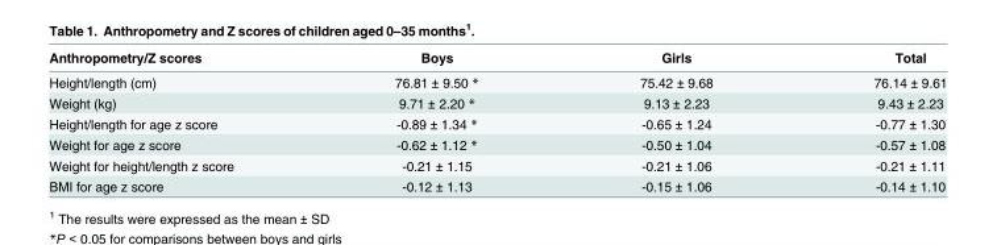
<table><thead><tr><td>Anthropometry/Z scores</td><td>Boys</td><td>Girls</td><td>Total</td></tr></thead><tbody><tr><td>Height/length (cm)</td><td>76.81 ± 9.50 *</td><td>75.42 ± 9.68</td><td>76.14 ± 9.61</td></tr><tr><td>Weight (kg)</td><td>9.71 ± 2.20 *</td><td>9.13 ± 2.23</td><td>9.43 ± 2.23</td></tr><tr><td>Height/length for age z score</td><td>-0.89 ± 1.34 *</td><td>-0.65 ± 1.24</td><td>-0.77 ± 1.30</td></tr><tr><td>Weight for age z score</td><td>-0.62 ± 1.12 *</td><td>-0.50 ± 1.04</td><td>-0.57 ± 1.08</td></tr><tr><td>Weight for height/length z score</td><td>-0.21 ± 1.15</td><td>-0.21 ± 1.06</td><td>-0.21 ± 1.11</td></tr><tr><td>BMI for age z score</td><td>-0.12 ± 1.13</td><td>-0.15 ± 1.06</td><td>-0.14 ± 1.10</td></tr></tbody></table>